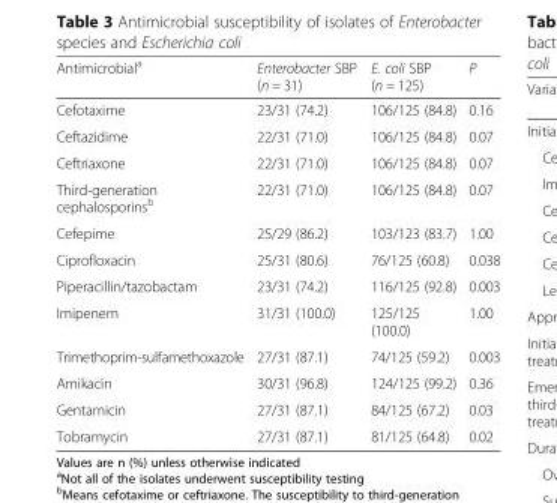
<table><thead><tr><td>Antimicrobial<sup>a</sup></td><td>Enterobacter SBP (n = 31)</td><td>E. coli SBP (n = 125)</td><td>P</td></tr></thead><tbody><tr><td>Cefotaxime</td><td>23/31 (74.2)</td><td>106/125 (84.8)</td><td>0.16</td></tr><tr><td>Ceftazidime</td><td>22/31 (71.0)</td><td>106/125 (84.8)</td><td>0.07</td></tr><tr><td>Ceftriaxone</td><td>22/31 (71.0)</td><td>106/125 (84.8)</td><td>0.07</td></tr><tr><td>Third-generation cephalosporins<sup>b</sup></td><td>22/31 (71.0)</td><td>106/125 (84.8)</td><td>0.07</td></tr><tr><td>Cefepime</td><td>25/29 (86.2)</td><td>103/123 (83.7)</td><td>1.00</td></tr><tr><td>Ciprofloxacin</td><td>25/31 (80.6)</td><td>76/125 (60.8)</td><td>0.038</td></tr><tr><td>Piperacillin/tazobactam</td><td>23/31 (74.2)</td><td>116/125 (92.8)</td><td>0.003</td></tr><tr><td>Imipenem</td><td>31/31 (100.0)</td><td>125/125 (100.0)</td><td>1.00</td></tr><tr><td>Trimethoprim-sulfamethoxazole</td><td>27/31 (87.1)</td><td>74/125 (59.2)</td><td>0.003</td></tr><tr><td>Amikacin</td><td>30/31 (96.8)</td><td>124/125 (99.2)</td><td>0.36</td></tr><tr><td>Gentamicin</td><td>27/31 (87.1)</td><td>84/125 (67.2)</td><td>0.03</td></tr><tr><td>Tobramycin</td><td>27/31 (87.1)</td><td>81/125 (64.8)</td><td>0.02</td></tr></tbody></table>